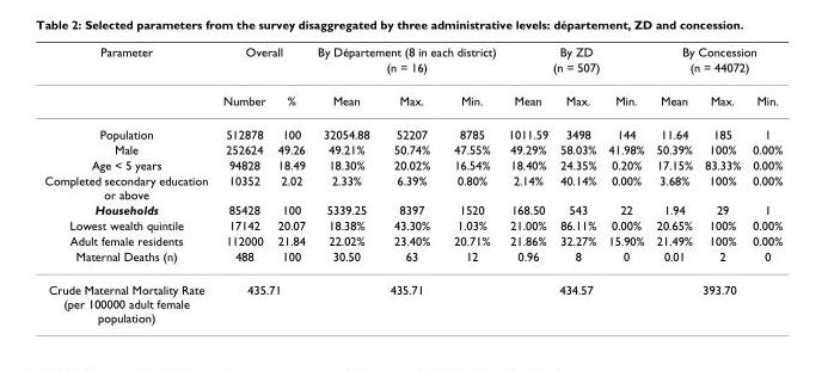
<table><thead><tr><td rowspan="3">Parameter</td><td colspan="2">Overall</td><td rowspan="2" colspan="3">By Département (8 in each district) (n = 16)</td><td rowspan="2" colspan="3">By ZD (n = 507)</td><td rowspan="2" colspan="3">By Concession (n = 44072)</td></tr><tr><td rowspan="2">Number</td><td rowspan="2">%</td></tr><tr><td>Mean</td><td>Max.</td><td>Min.</td><td>Mean</td><td>Max.</td><td>Min.</td><td>Mean</td><td>Max.</td><td>Min.</td></tr></thead><tbody><tr><td>Population</td><td>512878</td><td>100</td><td>32054.88</td><td>52207</td><td>8785</td><td>1011.59</td><td>3498</td><td>144</td><td>11.64</td><td>185</td><td>1</td></tr><tr><td>Male</td><td>252624</td><td>49.26</td><td>49.21%</td><td>50.74%</td><td>47.55%</td><td>49.29%</td><td>58.03%</td><td>41.98%</td><td>50.39%</td><td>100%</td><td>0.00%</td></tr><tr><td>Age &lt; 5 years</td><td>94828</td><td>18.49</td><td>18.30%</td><td>20.02%</td><td>16.54%</td><td>18.40%</td><td>24.35%</td><td>0.20%</td><td>17.15%</td><td>83.33%</td><td>0.00%</td></tr><tr><td>Completed secondary education or above</td><td>10352</td><td>2.02</td><td>2.33%</td><td>6.39%</td><td>0.80%</td><td>2.14%</td><td>40.14%</td><td>0.00%</td><td>3.68%</td><td>100%</td><td>0.00%</td></tr><tr><td>Households</td><td>85428</td><td>100</td><td>5339.25</td><td>8397</td><td>1520</td><td>168.50</td><td>543</td><td>22</td><td>1.94</td><td>29</td><td>1</td></tr><tr><td>Lowest wealth quintile</td><td>17142</td><td>20.07</td><td>18.38%</td><td>43.30%</td><td>1.03%</td><td>21.00%</td><td>86.11%</td><td>0.00%</td><td>20.65%</td><td>100%</td><td>0.00%</td></tr><tr><td>Adult female residents</td><td>112000</td><td>21.84</td><td>22.02%</td><td>23.40%</td><td>20.71%</td><td>21.86%</td><td>32.27%</td><td>15.90%</td><td>21.49%</td><td>100%</td><td>0.00%</td></tr><tr><td>Maternal Deaths (n)</td><td>488</td><td>100</td><td>30.50</td><td>63</td><td>12</td><td>0.96</td><td>8</td><td>0</td><td>0.01</td><td>2</td><td>0</td></tr><tr><td>Crude Maternal Mortality Rate (per 100000 adult female population)</td><td colspan="2">435.71</td><td colspan="3">435.71</td><td colspan="3">434.57</td><td colspan="3">393.70</td></tr></tbody></table>